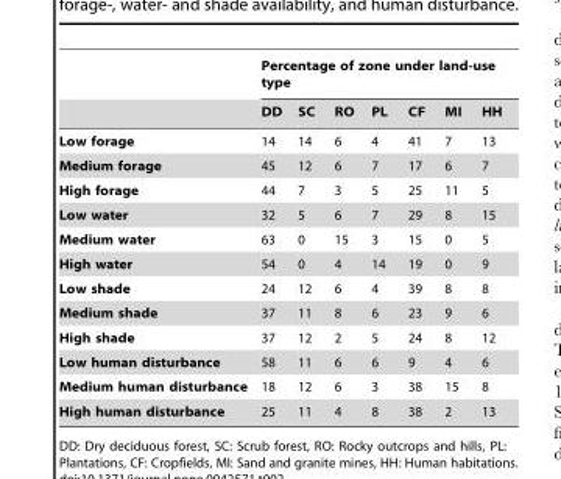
<table><thead><tr><td rowspan="2"></td><td colspan="7">Percentage of zone under land-use type</td></tr><tr><td>DD</td><td>SC</td><td>RO</td><td>PL</td><td>CF</td><td>MI</td><td>HH</td></tr></thead><tbody><tr><td>Low forage</td><td>14</td><td>14</td><td>6</td><td>4</td><td>41</td><td>7</td><td>13</td></tr><tr><td>Medium forage</td><td>45</td><td>12</td><td>6</td><td>7</td><td>17</td><td>6</td><td>7</td></tr><tr><td>High forage</td><td>44</td><td>7</td><td>3</td><td>5</td><td>25</td><td>11</td><td>5</td></tr><tr><td>Low water</td><td>32</td><td>5</td><td>6</td><td>7</td><td>29</td><td>8</td><td>15</td></tr><tr><td>Medium water</td><td>63</td><td>0</td><td>15</td><td>3</td><td>15</td><td>0</td><td>5</td></tr><tr><td>High water</td><td>54</td><td>0</td><td>4</td><td>14</td><td>19</td><td>0</td><td>9</td></tr><tr><td>Low shade</td><td>24</td><td>12</td><td>6</td><td>4</td><td>39</td><td>8</td><td>8</td></tr><tr><td>Medium shade</td><td>37</td><td>11</td><td>8</td><td>6</td><td>23</td><td>9</td><td>6</td></tr><tr><td>High shade</td><td>37</td><td>12</td><td>2</td><td>5</td><td>24</td><td>8</td><td>12</td></tr><tr><td>Low human disturbance</td><td>58</td><td>11</td><td>6</td><td>6</td><td>9</td><td>4</td><td>6</td></tr><tr><td>Medium human disturbance</td><td>18</td><td>12</td><td>6</td><td>3</td><td>38</td><td>15</td><td>8</td></tr><tr><td>High human disturbance</td><td>25</td><td>11</td><td>4</td><td>8</td><td>38</td><td>2</td><td>13</td></tr></tbody></table>